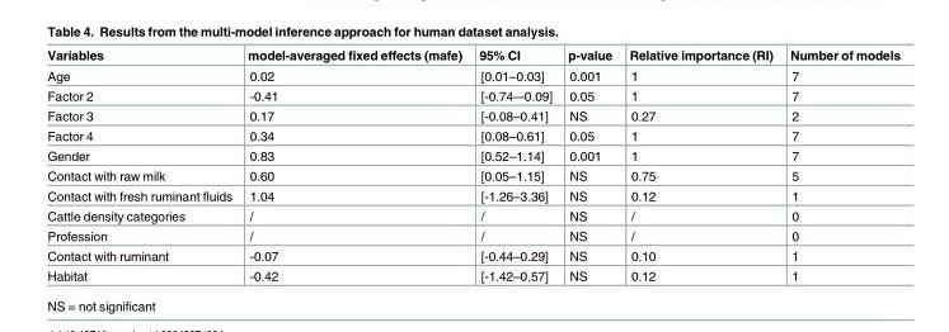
<table><thead><tr><td>Variables</td><td>model-averaged fixed effects (mafe)</td><td>95% CI</td><td>p-value</td><td>Relative importance (RI)</td><td>Number of models</td></tr></thead><tbody><tr><td>Age</td><td>0.02</td><td>[0.01–0.03]</td><td>0.001</td><td>1</td><td>7</td></tr><tr><td>Factor 2</td><td>-0.41</td><td>[-0.74–-0.09]</td><td>0.05</td><td>1</td><td>7</td></tr><tr><td>Factor 3</td><td>0.17</td><td>[-0.08–0.41]</td><td>NS</td><td>0.27</td><td>2</td></tr><tr><td>Factor 4</td><td>0.34</td><td>[0.08–0.61]</td><td>0.05</td><td>1</td><td>7</td></tr><tr><td>Gender</td><td>0.83</td><td>[0.52–1.14]</td><td>0.001</td><td>1</td><td>7</td></tr><tr><td>Contact with raw milk</td><td>0.60</td><td>[0.05–1.15]</td><td>NS</td><td>0.75</td><td>5</td></tr><tr><td>Contact with fresh ruminant fluids</td><td>1.04</td><td>[-1.26–3.36]</td><td>NS</td><td>0.12</td><td>1</td></tr><tr><td>Cattle density categories</td><td>/</td><td>/</td><td>NS</td><td>/</td><td>0</td></tr><tr><td>Profession</td><td>/</td><td>/</td><td>NS</td><td>/</td><td>0</td></tr><tr><td>Contact with ruminant</td><td>-0.07</td><td>[-0.44–0.29]</td><td>NS</td><td>0.10</td><td>1</td></tr><tr><td>Habitat</td><td>-0.42</td><td>[-1.42–0.57]</td><td>NS</td><td>0.12</td><td>1</td></tr></tbody></table>